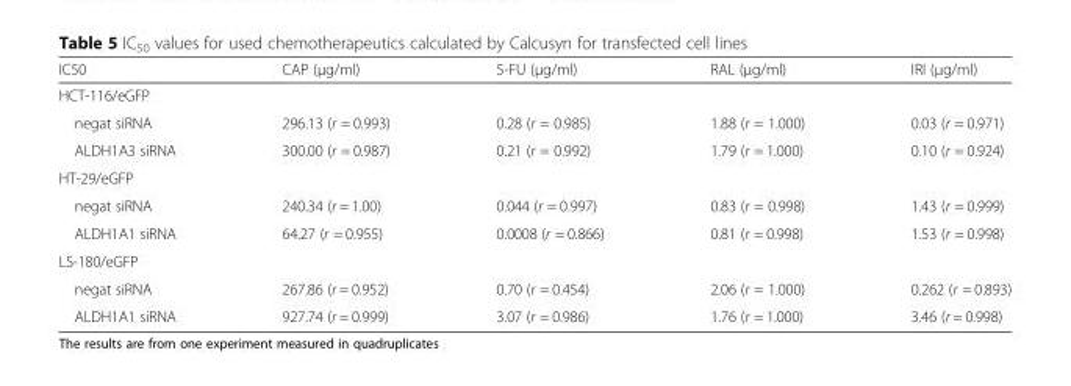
<table><thead><tr><td>IC50</td><td>CAP (μg/ml)</td><td>5-FU (μg/ml)</td><td>RAL (μg/ml)</td><td>IRI (μg/ml)</td></tr></thead><tbody><tr><td colspan="5">HCT-116/eGFP</td></tr><tr><td>negat siRNA</td><td>296.13 (r = 0.993)</td><td>0.28 (r = 0.985)</td><td>1.88 (r = 1.000)</td><td>0.03 (r = 0.971)</td></tr><tr><td>ALDH1A3 siRNA</td><td>300.00 (r = 0.987)</td><td>0.21 (r = 0.992)</td><td>1.79 (r = 1.000)</td><td>0.10 (r = 0.924)</td></tr><tr><td colspan="5">HT-29/eGFP</td></tr><tr><td>negat siRNA</td><td>240.34 (r = 1.00)</td><td>0.044 (r = 0.997)</td><td>0.83 (r = 0.998)</td><td>1.43 (r = 0.999)</td></tr><tr><td>ALDH1A1 siRNA</td><td>64.27 (r = 0.955)</td><td>0.0008 (r = 0.866)</td><td>0.81 (r = 0.998)</td><td>1.53 (r = 0.998)</td></tr><tr><td colspan="5">LS-180/eGFP</td></tr><tr><td>negat siRNA</td><td>267.86 (r = 0.952)</td><td>0.70 (r = 0.454)</td><td>2.06 (r = 1.000)</td><td>0.262 (r = 0.893)</td></tr><tr><td>ALDH1A1 siRNA</td><td>927.74 (r = 0.999)</td><td>3.07 (r = 0.986)</td><td>1.76 (r = 1.000)</td><td>3.46 (r = 0.998)</td></tr></tbody></table>